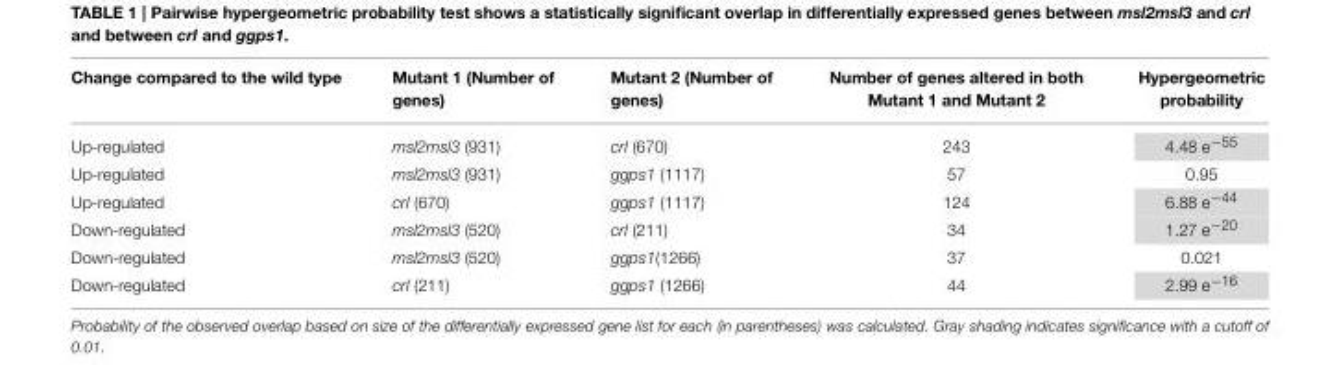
<table><thead><tr><td>Change compared to the wild type</td><td>Mutant 1 (Number of genes)</td><td>Mutant 2 (Number of genes)</td><td>Number of genes altered in both Mutant 1 and Mutant 2</td><td>Hypergeometric probability</td></tr></thead><tbody><tr><td>Up-regulated</td><td>msl2msl3 (931)</td><td>crl (670)</td><td>243</td><td>4.48 e<sup>−55</sup></td></tr><tr><td>Up-regulated</td><td>msl2msl3 (931)</td><td>ggps1 (1117)</td><td>57</td><td>0.95</td></tr><tr><td>Up-regulated</td><td>crl (670)</td><td>ggps1 (1117)</td><td>124</td><td>6.88 e<sup>−44</sup></td></tr><tr><td>Down-regulated</td><td>msl2msl3 (520)</td><td>crl (211)</td><td>34</td><td>1.27 e<sup>−20</sup></td></tr><tr><td>Down-regulated</td><td>msl2msl3 (520)</td><td>ggps1(1266)</td><td>37</td><td>0.021</td></tr><tr><td>Down-regulated</td><td>crl (211)</td><td>ggps1 (1266)</td><td>44</td><td>2.99 e<sup>−16</sup></td></tr></tbody></table>